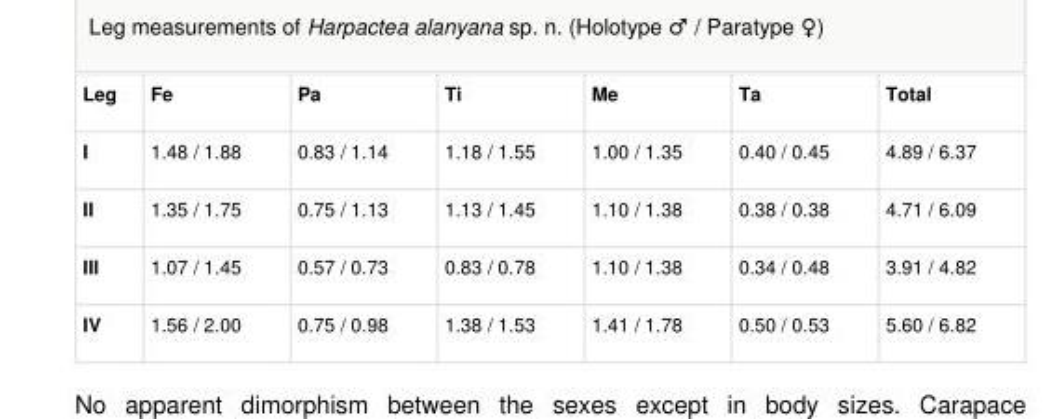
<table><tbody><tr><td>Leg</td><td>Fe</td><td>Pa</td><td>Ti</td><td>Me</td><td>Ta</td><td>Total</td></tr><tr><td>I</td><td>1.48 / 1.88</td><td>0.83 / 1.14</td><td>1.18 / 1.55</td><td>1.00 / 1.35</td><td>0.40 / 0.45</td><td>4.89 / 6.37</td></tr><tr><td>II</td><td>1.35 / 1.75</td><td>0.75 / 1.13</td><td>1.13 / 1.45</td><td>1.10 / 1.38</td><td>0.38 / 0.38</td><td>4.71 / 6.09</td></tr><tr><td>III</td><td>1.07 / 1.45</td><td>0.57 / 0.73</td><td>0.83 / 0.78</td><td>1.10 / 1.38</td><td>0.34 / 0.48</td><td>3.91 / 4.82</td></tr><tr><td>IV</td><td>1.56 / 2.00</td><td>0.75 / 0.98</td><td>1.38 / 1.53</td><td>1.41 / 1.78</td><td>0.50 / 0.53</td><td>5.60 / 6.82</td></tr></tbody></table>